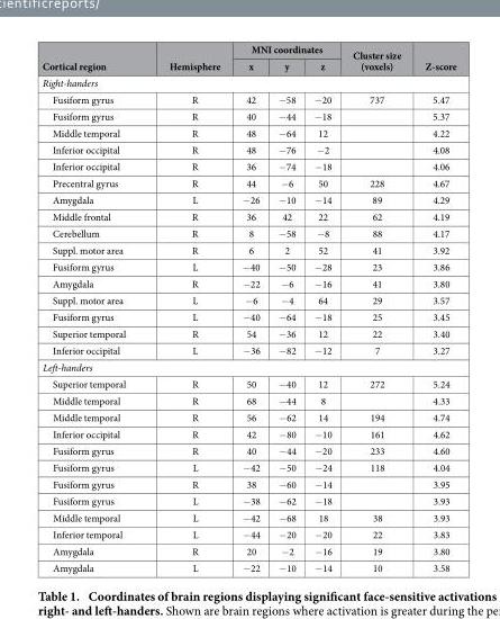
<table><thead><tr><td rowspan="2">Cortical region</td><td rowspan="2">Hemisphere</td><td colspan="3">MNI coordinates</td><td rowspan="2">Cluster size (voxels)</td><td rowspan="2">Z-score</td></tr><tr><td>x</td><td>y</td><td>z</td></tr></thead><tbody><tr><td colspan="7">Right-handers</td></tr><tr><td>Fusiform gyrus</td><td>R</td><td>42</td><td>− 58</td><td>− 20</td><td>737</td><td>5.47</td></tr><tr><td>Fusiform gyrus</td><td>R</td><td>40</td><td>− 44</td><td>− 18</td><td></td><td>5.37</td></tr><tr><td>Middle temporal</td><td>R</td><td>48</td><td>− 64</td><td>12</td><td></td><td>4.22</td></tr><tr><td>Inferior occipital</td><td>R</td><td>48</td><td>− 76</td><td>− 2</td><td></td><td>4.08</td></tr><tr><td>Inferior occipital</td><td>R</td><td>36</td><td>− 74</td><td>− 18</td><td></td><td>4.06</td></tr><tr><td>Precentral gyrus</td><td>R</td><td>44</td><td>− 6</td><td>50</td><td>228</td><td>4.67</td></tr><tr><td>Amygdala</td><td>L</td><td>− 26</td><td>− 10</td><td>− 14</td><td>89</td><td>4.29</td></tr><tr><td>Middle frontal</td><td>R</td><td>36</td><td>42</td><td>22</td><td>62</td><td>4.19</td></tr><tr><td>Cerebellum</td><td>R</td><td>8</td><td>− 58</td><td>− 8</td><td>88</td><td>4.17</td></tr><tr><td>Suppl. motor area</td><td>R</td><td>6</td><td>2</td><td>52</td><td>41</td><td>3.92</td></tr><tr><td>Fusiform gyrus</td><td>L</td><td>− 40</td><td>− 50</td><td>− 28</td><td>23</td><td>3.86</td></tr><tr><td>Amygdala</td><td>R</td><td>− 22</td><td>− 6</td><td>− 16</td><td>41</td><td>3.80</td></tr><tr><td>Suppl. motor area</td><td>L</td><td>− 6</td><td>− 4</td><td>64</td><td>29</td><td>3.57</td></tr><tr><td>Fusiform gyrus</td><td>L</td><td>− 40</td><td>− 64</td><td>− 18</td><td>25</td><td>3.45</td></tr><tr><td>Superior temporal</td><td>R</td><td>54</td><td>− 36</td><td>12</td><td>22</td><td>3.40</td></tr><tr><td>Inferior occipital</td><td>L</td><td>− 36</td><td>− 82</td><td>− 12</td><td>7</td><td>3.27</td></tr><tr><td colspan="7">Left-handers</td></tr><tr><td>Superior temporal</td><td>R</td><td>50</td><td>− 40</td><td>12</td><td>272</td><td>5.24</td></tr><tr><td>Middle temporal</td><td>R</td><td>68</td><td>− 44</td><td>8</td><td></td><td>4.33</td></tr><tr><td>Middle temporal</td><td>R</td><td>56</td><td>− 62</td><td>14</td><td>194</td><td>4.74</td></tr><tr><td>Inferior occipital</td><td>R</td><td>42</td><td>− 80</td><td>− 10</td><td>161</td><td>4.62</td></tr><tr><td>Fusiform gyrus</td><td>R</td><td>40</td><td>− 44</td><td>− 20</td><td>233</td><td>4.60</td></tr><tr><td>Fusiform gyrus</td><td>L</td><td>− 42</td><td>− 50</td><td>− 24</td><td>118</td><td>4.04</td></tr><tr><td>Fusiform gyrus</td><td>R</td><td>38</td><td>− 60</td><td>− 14</td><td></td><td>3.95</td></tr><tr><td>Fusiform gyrus</td><td>L</td><td>− 38</td><td>− 62</td><td>− 18</td><td></td><td>3.93</td></tr><tr><td>Middle temporal</td><td>L</td><td>− 42</td><td>− 68</td><td>18</td><td>38</td><td>3.93</td></tr><tr><td>Inferior temporal</td><td>L</td><td>− 44</td><td>− 20</td><td>− 20</td><td>22</td><td>3.83</td></tr><tr><td>Amygdala</td><td>R</td><td>20</td><td>− 2</td><td>− 16</td><td>19</td><td>3.80</td></tr><tr><td>Amygdala</td><td>L</td><td>− 22</td><td>− 10</td><td>− 14</td><td>10</td><td>3.58</td></tr></tbody></table>